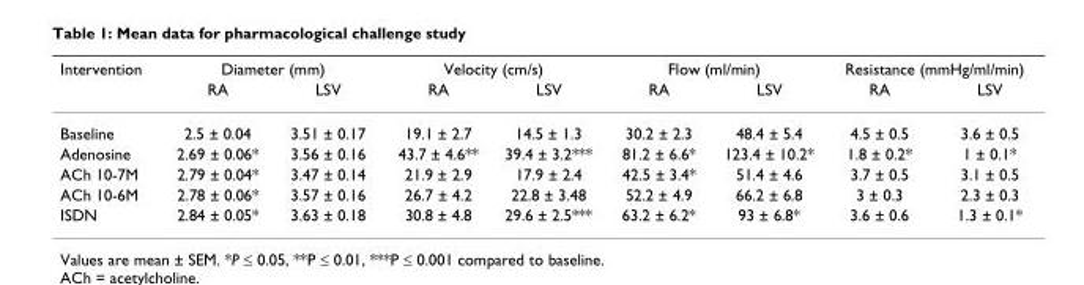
<table><thead><tr><td rowspan="2">Intervention</td><td colspan="2">Diameter (mm)</td><td colspan="2">Velocity (cm/s)</td><td colspan="2">Flow (ml/min)</td><td colspan="2">Resistance (mmHg/ml/min)</td></tr><tr><td>RA</td><td>LSV</td><td>RA</td><td>LSV</td><td>RA</td><td>LSV</td><td>RA</td><td>LSV</td></tr></thead><tbody><tr><td>Baseline</td><td>2.5 ± 0.04</td><td>3.51 ± 0.17</td><td>19.1 ± 2.7</td><td>14.5 ± 1.3</td><td>30.2 ± 2.3</td><td>48.4 ± 5.4</td><td>4.5 ± 0.5</td><td>3.6 ± 0.5</td></tr><tr><td>Adenosine</td><td>2.69 ± 0.06*</td><td>3.56 ± 0.16</td><td>43.7 ± 4.6**</td><td>39.4 ± 3.2***</td><td>81.2 ± 6.6*</td><td>123.4 ± 10.2*</td><td>1.8 ± 0.2*</td><td>1 ± 0.1*</td></tr><tr><td>ACh 10-7M</td><td>2.79 ± 0.04*</td><td>3.47 ± 0.14</td><td>21.9 ± 2.9</td><td>17.9 ± 2.4</td><td>42.5 ± 3.4*</td><td>51.4 ± 4.6</td><td>3.7 ± 0.5</td><td>3.1 ± 0.5</td></tr><tr><td>ACh 10-6M</td><td>2.78 ± 0.06*</td><td>3.57 ± 0.16</td><td>26.7 ± 4.2</td><td>22.8 ± 3.48</td><td>52.2 ± 4.9</td><td>66.2 ± 6.8</td><td>3 ± 0.3</td><td>2.3 ± 0.3</td></tr><tr><td>ISDN</td><td>2.84 ± 0.05*</td><td>3.63 ± 0.18</td><td>30.8 ± 4.8</td><td>29.6 ± 2.5***</td><td>63.2 ± 6.2*</td><td>93 ± 6.8*</td><td>3.6 ± 0.6</td><td>1.3 ± 0.1*</td></tr></tbody></table>